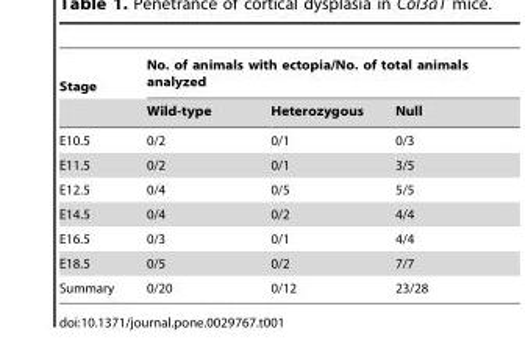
<table><thead><tr><td rowspan="2">Stage</td><td colspan="3">No. of animals with ectopia/No. of total animals analyzed</td></tr><tr><td>Wild-type</td><td>Heterozygous</td><td>Null</td></tr></thead><tbody><tr><td>E10.5</td><td>0/2</td><td>0/1</td><td>0/3</td></tr><tr><td>E11.5</td><td>0/2</td><td>0/1</td><td>3/5</td></tr><tr><td>E12.5</td><td>0/4</td><td>0/5</td><td>5/5</td></tr><tr><td>E14.5</td><td>0/4</td><td>0/2</td><td>4/4</td></tr><tr><td>E16.5</td><td>0/3</td><td>0/1</td><td>4/4</td></tr><tr><td>E18.5</td><td>0/5</td><td>0/2</td><td>7/7</td></tr><tr><td>Summary</td><td>0/20</td><td>0/12</td><td>23/28</td></tr></tbody></table>